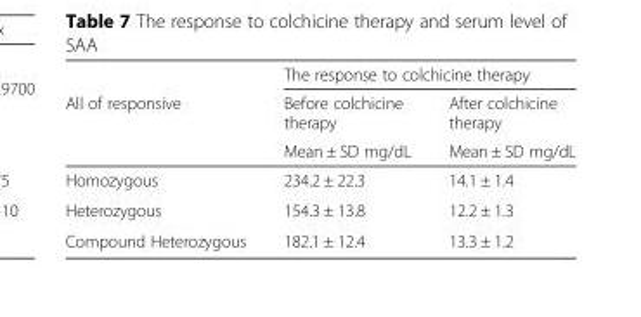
<table><thead><tr><td rowspan="3">All of responsive</td><td colspan="2">The response to colchicine therapy</td></tr><tr><td rowspan="2">Before colchicine therapy Mean ± SD mg/dL</td><td rowspan="2">After colchicine therapy Mean ± SD mg/dL</td></tr><tr></tr></thead><tbody><tr><td>Homozygous</td><td>234.2 ± 22.3</td><td>14.1 ± 1.4</td></tr><tr><td>Heterozygous</td><td>154.3 ± 13.8</td><td>12.2 ± 1.3</td></tr><tr><td>Compound Heterozygous</td><td>182.1 ± 12.4</td><td>13.3 ± 1.2</td></tr></tbody></table>